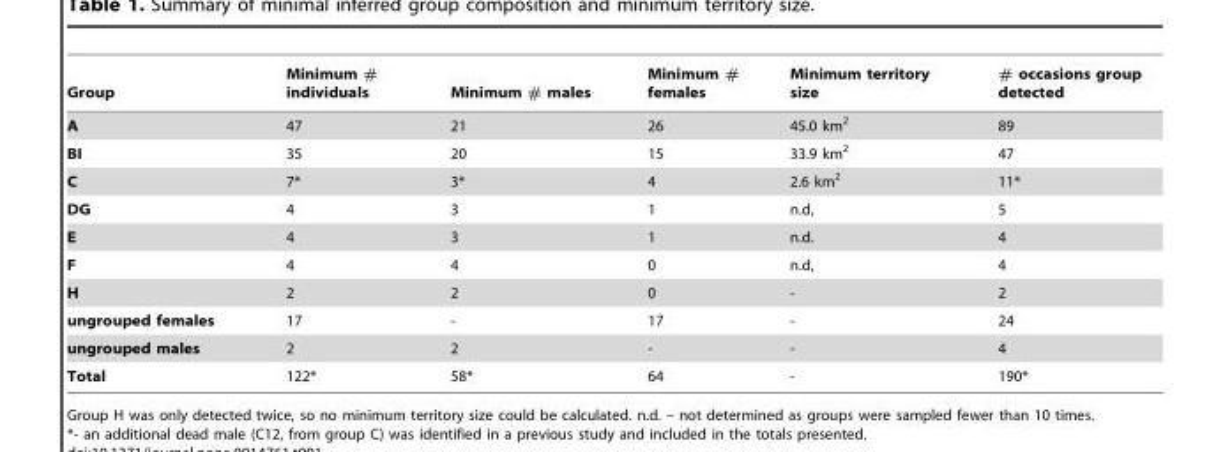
<table><thead><tr><td>Group</td><td>Minimum # individuals</td><td>Minimum # males</td><td>Minimum # females</td><td>Minimum territory size</td><td># occasions group detected</td></tr></thead><tbody><tr><td>A</td><td>47</td><td>21</td><td>26</td><td>45.0 km<sup>2</sup></td><td>89</td></tr><tr><td>BI</td><td>35</td><td>20</td><td>15</td><td>33.9 km<sup>2</sup></td><td>47</td></tr><tr><td>C</td><td>7*</td><td>3*</td><td>4</td><td>2.6 km<sup>2</sup></td><td>11*</td></tr><tr><td>DG</td><td>4</td><td>3</td><td>1</td><td>n.d,</td><td>5</td></tr><tr><td>E</td><td>4</td><td>3</td><td>1</td><td>n.d.</td><td>4</td></tr><tr><td>F</td><td>4</td><td>4</td><td>0</td><td>n.d,</td><td>4</td></tr><tr><td>H</td><td>2</td><td>2</td><td>0</td><td>-</td><td>2</td></tr><tr><td>ungrouped females</td><td>17</td><td>-</td><td>17</td><td>-</td><td>24</td></tr><tr><td>ungrouped males</td><td>2</td><td>2</td><td>-</td><td>-</td><td>4</td></tr><tr><td>Total</td><td>122*</td><td>58*</td><td>64</td><td>-</td><td>190*</td></tr></tbody></table>